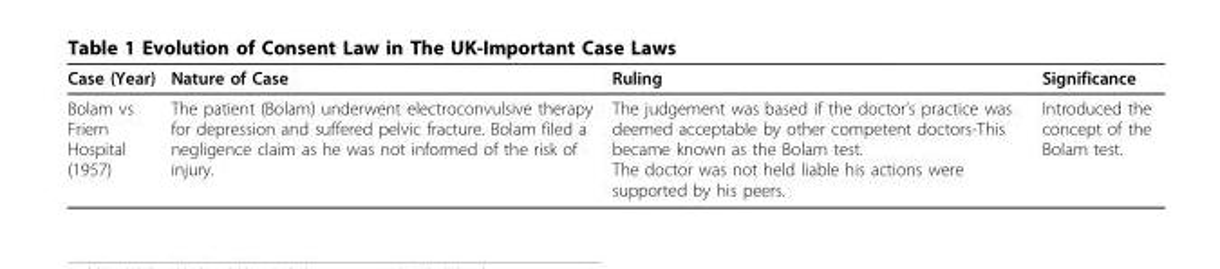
<table><thead><tr><td>Case (Year)</td><td>Nature of Case</td><td>Ruling</td><td>Significance</td></tr></thead><tbody><tr><td>Bolam vs Friern Hospital (1957)</td><td>The patient (Bolam) underwent electroconvulsive therapy for depression and suffered pelvic fracture. Bolam filed a negligence claim as he was not informed of the risk of injury.</td><td>The judgement was based if the doctor’s practice was deemed acceptable by other competent doctors-This became known as the Bolam test. The doctor was not held liable his actions were supported by his peers.</td><td>Introduced the concept of the Bolam test.</td></tr></tbody></table>